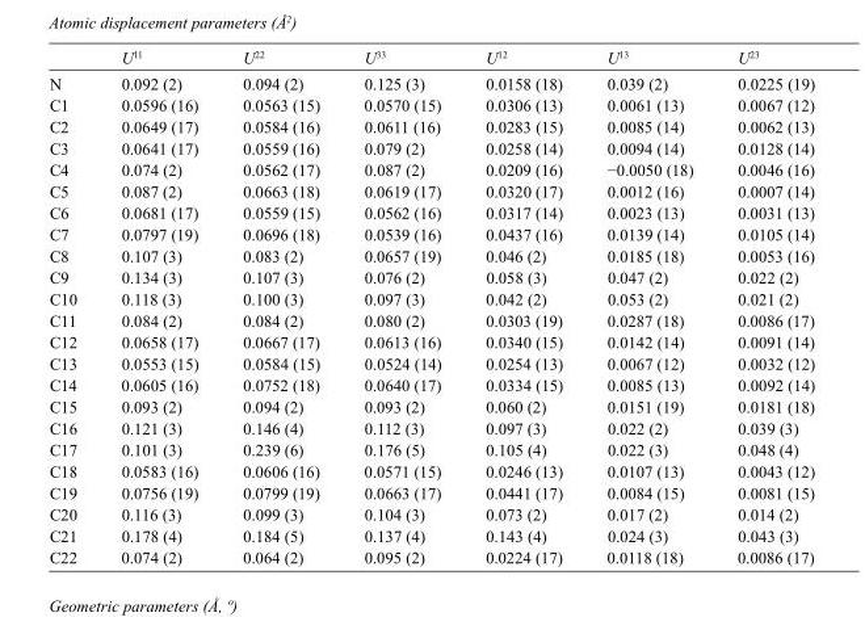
<table><thead><tr><td></td><td>U<sup>11</sup></td><td>U<sup>22</sup></td><td>U<sup>33</sup></td><td>U<sup>12</sup></td><td>U<sup>13</sup></td><td>U<sup>23</sup></td></tr></thead><tbody><tr><td>N</td><td>0.092 (2)</td><td>0.094 (2)</td><td>0.125 (3)</td><td>0.0158 (18)</td><td>0.039 (2)</td><td>0.0225 (19)</td></tr><tr><td>C1</td><td>0.0596 (16)</td><td>0.0563 (15)</td><td>0.0570 (15)</td><td>0.0306 (13)</td><td>0.0061 (13)</td><td>0.0067 (12)</td></tr><tr><td>C2</td><td>0.0649 (17)</td><td>0.0584 (16)</td><td>0.0611 (16)</td><td>0.0283 (15)</td><td>0.0085 (14)</td><td>0.0062 (13)</td></tr><tr><td>C3</td><td>0.0641 (17)</td><td>0.0559 (16)</td><td>0.079 (2)</td><td>0.0258 (14)</td><td>0.0094 (14)</td><td>0.0128 (14)</td></tr><tr><td>C4</td><td>0.074 (2)</td><td>0.0562 (17)</td><td>0.087 (2)</td><td>0.0209 (16)</td><td>−0.0050 (18)</td><td>0.0046 (16)</td></tr><tr><td>C5</td><td>0.087 (2)</td><td>0.0663 (18)</td><td>0.0619 (17)</td><td>0.0320 (17)</td><td>0.0012 (16)</td><td>0.0007 (14)</td></tr><tr><td>C6</td><td>0.0681 (17)</td><td>0.0559 (15)</td><td>0.0562 (16)</td><td>0.0317 (14)</td><td>0.0023 (13)</td><td>0.0031 (13)</td></tr><tr><td>C7</td><td>0.0797 (19)</td><td>0.0696 (18)</td><td>0.0539 (16)</td><td>0.0437 (16)</td><td>0.0139 (14)</td><td>0.0105 (14)</td></tr><tr><td>C8</td><td>0.107 (3)</td><td>0.083 (2)</td><td>0.0657 (19)</td><td>0.046 (2)</td><td>0.0185 (18)</td><td>0.0053 (16)</td></tr><tr><td>C9</td><td>0.134 (3)</td><td>0.107 (3)</td><td>0.076 (2)</td><td>0.058 (3)</td><td>0.047 (2)</td><td>0.022 (2)</td></tr><tr><td>C10</td><td>0.118 (3)</td><td>0.100 (3)</td><td>0.097 (3)</td><td>0.042 (2)</td><td>0.053 (2)</td><td>0.021 (2)</td></tr><tr><td>C11</td><td>0.084 (2)</td><td>0.084 (2)</td><td>0.080 (2)</td><td>0.0303 (19)</td><td>0.0287 (18)</td><td>0.0086 (17)</td></tr><tr><td>C12</td><td>0.0658 (17)</td><td>0.0667 (17)</td><td>0.0613 (16)</td><td>0.0340 (15)</td><td>0.0142 (14)</td><td>0.0091 (14)</td></tr><tr><td>C13</td><td>0.0553 (15)</td><td>0.0584 (15)</td><td>0.0524 (14)</td><td>0.0254 (13)</td><td>0.0067 (12)</td><td>0.0032 (12)</td></tr><tr><td>C14</td><td>0.0605 (16)</td><td>0.0752 (18)</td><td>0.0640 (17)</td><td>0.0334 (15)</td><td>0.0085 (13)</td><td>0.0092 (14)</td></tr><tr><td>C15</td><td>0.093 (2)</td><td>0.094 (2)</td><td>0.093 (2)</td><td>0.060 (2)</td><td>0.0151 (19)</td><td>0.0181 (18)</td></tr><tr><td>C16</td><td>0.121 (3)</td><td>0.146 (4)</td><td>0.112 (3)</td><td>0.097 (3)</td><td>0.022 (2)</td><td>0.039 (3)</td></tr><tr><td>C17</td><td>0.101 (3)</td><td>0.239 (6)</td><td>0.176 (5)</td><td>0.105 (4)</td><td>0.022 (3)</td><td>0.048 (4)</td></tr><tr><td>C18</td><td>0.0583 (16)</td><td>0.0606 (16)</td><td>0.0571 (15)</td><td>0.0246 (13)</td><td>0.0107 (13)</td><td>0.0043 (12)</td></tr><tr><td>C19</td><td>0.0756 (19)</td><td>0.0799 (19)</td><td>0.0663 (17)</td><td>0.0441 (17)</td><td>0.0084 (15)</td><td>0.0081 (15)</td></tr><tr><td>C20</td><td>0.116 (3)</td><td>0.099 (3)</td><td>0.104 (3)</td><td>0.073 (2)</td><td>0.017 (2)</td><td>0.014 (2)</td></tr><tr><td>C21</td><td>0.178 (4)</td><td>0.184 (5)</td><td>0.137 (4)</td><td>0.143 (4)</td><td>0.024 (3)</td><td>0.043 (3)</td></tr><tr><td>C22</td><td>0.074 (2)</td><td>0.064 (2)</td><td>0.095 (2)</td><td>0.0224 (17)</td><td>0.0118 (18)</td><td>0.0086 (17)</td></tr></tbody></table>